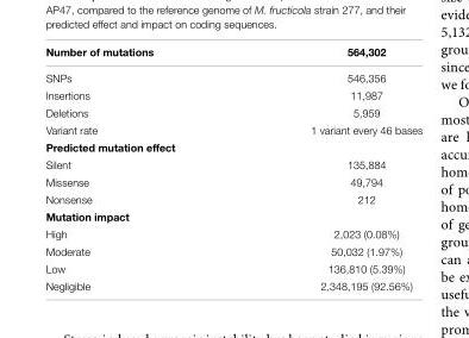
<table><thead><tr><td>Number of mutations</td><td>564,302</td></tr></thead><tbody><tr><td>SNPs</td><td>546,356</td></tr><tr><td>Insertions</td><td>11,987</td></tr><tr><td>Deletions</td><td>5,959</td></tr><tr><td>Variant rate</td><td>1 variant every 46 bases</td></tr><tr><td colspan="2">Predicted mutation effect</td></tr><tr><td>Silent</td><td>135,884</td></tr><tr><td>Missense</td><td>49,794</td></tr><tr><td>Nonsense</td><td>212</td></tr><tr><td colspan="2">Mutation impact</td></tr><tr><td>High</td><td>2,023 (0.08%)</td></tr><tr><td>Moderate</td><td>50,032 (1.97%)</td></tr><tr><td>Low</td><td>136,810 (5.39%)</td></tr><tr><td>Negligible</td><td>2,348,195 (92.56%)</td></tr></tbody></table>